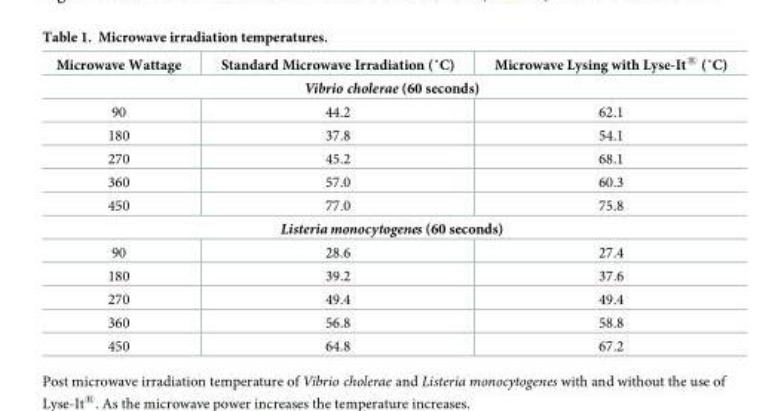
<table><thead><tr><td>Microwave Wattage</td><td>Standard Microwave Irradiation (˚C)</td><td>Microwave Lysing with Lyse-It® (˚C)</td></tr></thead><tbody><tr><td colspan="3">Vibrio cholerae (60 seconds)</td></tr><tr><td>90</td><td>44.2</td><td>62.1</td></tr><tr><td>180</td><td>37.8</td><td>54.1</td></tr><tr><td>270</td><td>45.2</td><td>68.1</td></tr><tr><td>360</td><td>57.0</td><td>60.3</td></tr><tr><td>450</td><td>77.0</td><td>75.8</td></tr><tr><td colspan="3">Listeria monocytogenes (60 seconds)</td></tr><tr><td>90</td><td>28.6</td><td>27.4</td></tr><tr><td>180</td><td>39.2</td><td>37.6</td></tr><tr><td>270</td><td>49.4</td><td>49.4</td></tr><tr><td>360</td><td>56.8</td><td>58.8</td></tr><tr><td>450</td><td>64.8</td><td>67.2</td></tr></tbody></table>